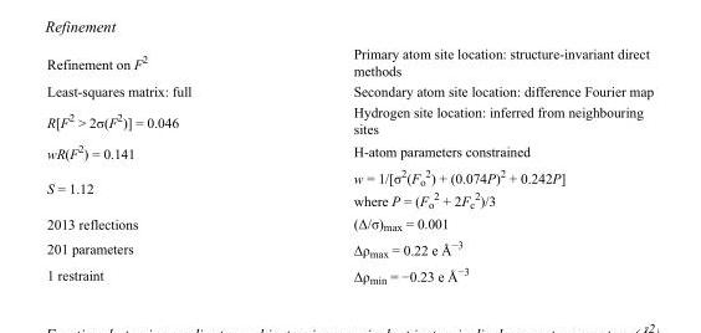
<table><tbody><tr><td>Refinement on F<sup>2</sup></td><td>Primary atom site location: structure-invariant direct methods</td></tr><tr><td>Least-squares matrix: full</td><td>Secondary atom site location: difference Fourier map</td></tr><tr><td>R[F<sup>2</sup> &gt; 2σ(F<sup>2</sup>)] = 0.046</td><td>Hydrogen site location: inferred from neighbouring sites</td></tr><tr><td>wR(F<sup>2</sup>) = 0.141</td><td>H-atom parameters constrained</td></tr><tr><td>S = 1.12</td><td>w = 1/[σ<sup>2</sup>(F<sub>o</sub> <sup>2</sup>) + (0.074P)<sup>2</sup> + 0.242P] where P = (F<sub>o</sub> <sup>2</sup> + 2F<sub>c</sub> <sup>2</sup>)/3</td></tr><tr><td>2013 reflections</td><td>(Δ/σ)<sub>max</sub> = 0.001</td></tr><tr><td>201 parameters</td><td>Δρ<sub>max</sub> = 0.22 e Å<sup>−3</sup></td></tr><tr><td>1 restraint</td><td>Δρ<sub>min</sub> = −0.23 e Å<sup>−3</sup></td></tr></tbody></table>